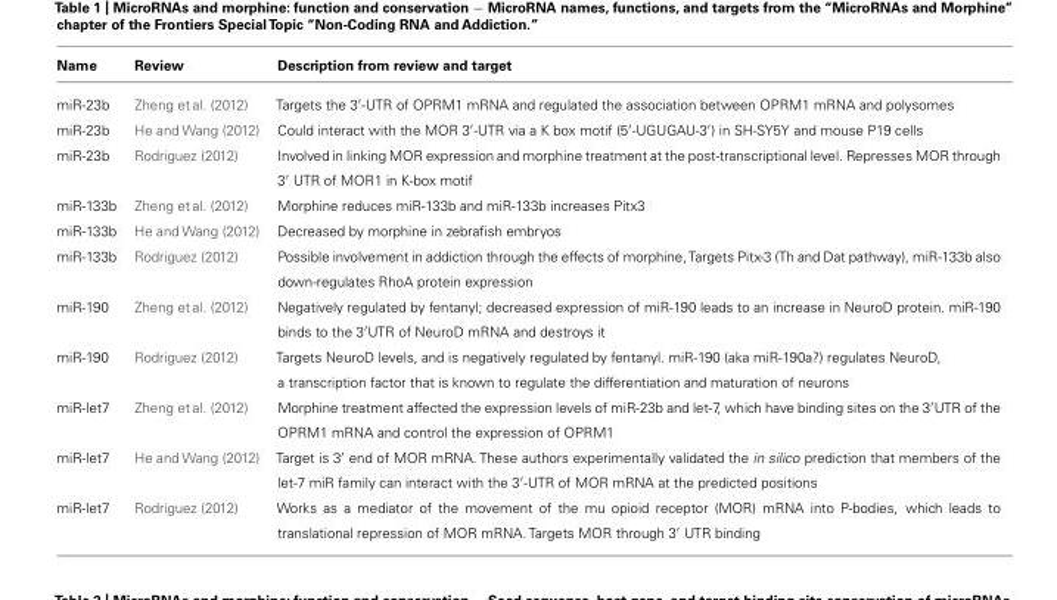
<table><thead><tr><td>Name</td><td>Review</td><td>Description from review and target</td></tr></thead><tbody><tr><td>miR-23b</td><td>Zheng et al. (2012)</td><td>Targets the 3′-UTR of OPRM1 mRNA and regulated the association between OPRM1 mRNA and polysomes</td></tr><tr><td>miR-23b</td><td>He and Wang (2012)</td><td>Could interact with the MOR 3′-UTR via a K box motif (5′-UGUGAU-3′) in SH-SY5Y and mouse P19 cells</td></tr><tr><td>miR-23b</td><td>Rodriguez (2012)</td><td>Involved in linking MOR expression and morphine treatment at the post-transcriptional level. Represses MOR through 3′ UTR of MOR1 in K-box motif</td></tr><tr><td>miR-133b</td><td>Zheng et al. (2012)</td><td>Morphine reduces miR-133b and miR-133b increases Pitx3</td></tr><tr><td>miR-133b</td><td>He and Wang (2012)</td><td>Decreased by morphine in zebrafish embryos</td></tr><tr><td>miR-133b</td><td>Rodriguez (2012)</td><td>Possible involvement in addiction through the effects of morphine,Targets Pitx-3 (Th and Dat pathway), miR-133b also down-regulates RhoA protein expression</td></tr><tr><td>miR-190</td><td>Zheng et al. (2012)</td><td>Negatively regulated by fentanyl; decreased expression of miR-190 leads to an increase in NeuroD protein. miR-190 binds to the 3′UTR of NeuroD mRNA and destroys it</td></tr><tr><td>miR-190</td><td>Rodriguez (2012)</td><td>Targets NeuroD levels, and is negatively regulated by fentanyl. miR-190 (aka miR-190a?) regulates NeuroD, a transcription factor that is known to regulate the differentiation and maturation of neurons</td></tr><tr><td>miR-let7</td><td>Zheng et al. (2012)</td><td>Morphine treatment affected the expression levels of miR-23b and let-7, which have binding sites on the 3′UTR of the OPRM1 mRNA and control the expression of OPRM1</td></tr><tr><td>miR-let7</td><td>He and Wang (2012)</td><td>Target is 3′ end of MOR mRNA. These authors experimentally validated the in silico prediction that members of the let-7 miR family can interact with the 3′-UTR of MOR mRNA at the predicted positions</td></tr><tr><td>miR-let7</td><td>Rodriguez (2012)</td><td>Works as a mediator of the movement of the mu opioid receptor (MOR) mRNA into P-bodies, which leads to translational repression of MOR mRNA. Targets MOR through 3′ UTR binding</td></tr></tbody></table>